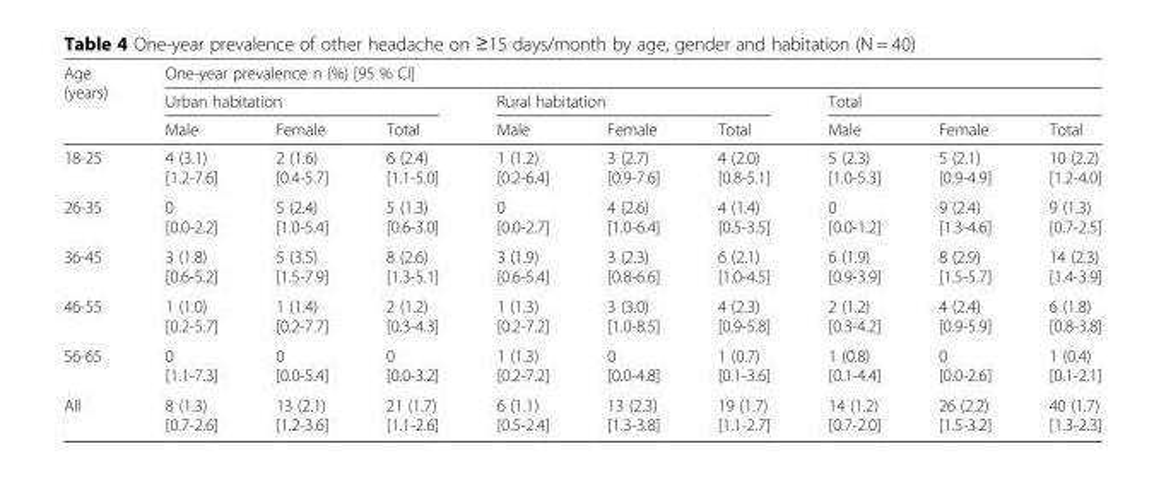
<table><thead><tr><td rowspan="3">Age (years)</td><td colspan="9">One-year prevalence n (%) [95 % CI]</td></tr><tr><td colspan="3">Urban habitation</td><td colspan="3">Rural habitation</td><td colspan="3">Total</td></tr><tr><td>Male</td><td>Female</td><td>Total</td><td>Male</td><td>Female</td><td>Total</td><td>Male</td><td>Female</td><td>Total</td></tr></thead><tbody><tr><td>18-25</td><td>4 (3.1) [1.2-7.6]</td><td>2 (1.6) [0.4-5.7]</td><td>6 (2.4) [1.1-5.0]</td><td>1 (1.2) [0.2-6.4]</td><td>3 (2.7) [0.9-7.6]</td><td>4 (2.0) [0.8-5.1]</td><td>5 (2.3) [1.0-5.3]</td><td>5 (2.1) [0.9-4.9]</td><td>10 (2.2) [1.2-4.0]</td></tr><tr><td>26-35</td><td>0 [0.0-2.2]</td><td>5 (2.4) [1.0-5.4]</td><td>5 (1.3) [0.6-3.0]</td><td>0 [0.0-2.7]</td><td>4 (2.6) [1.0-6.4]</td><td>4 (1.4) [0.5-3.5]</td><td>0 [0.0-1.2]</td><td>9 (2.4) [1.3-4.6]</td><td>9 (1.3) [0.7-2.5]</td></tr><tr><td>36-45</td><td>3 (1.8) [0.6-5.2]</td><td>5 (3.5) [1.5-7.9]</td><td>8 (2.6) [1.3-5.1]</td><td>3 (1.9) [0.6-5.4]</td><td>3 (2.3) [0.8-6.6]</td><td>6 (2.1) [1.0-4.5]</td><td>6 (1.9) [0.9-3.9]</td><td>8 (2.9) [1.5-5.7]</td><td>14 (2.3) [1.4-3.9]</td></tr><tr><td>46-55</td><td>1 (1.0) [0.2-5.7]</td><td>1 (1.4) [0.2-7.7]</td><td>2 (1.2) [0.3-4.3]</td><td>1 (1.3) [0.2-7.2]</td><td>3 (3.0) [1.0-8.5]</td><td>4 (2.3) [0.9-5.8]</td><td>2 (1.2) [0.3-4.2]</td><td>4 (2.4) [0.9-5.9]</td><td>6 (1.8) [0.8-3.8]</td></tr><tr><td>56-65</td><td>0 [1.1-7.3]</td><td>0 [0.0-5.4]</td><td>0 [0.0-3.2]</td><td>1 (1.3) [0.2-7.2]</td><td>0 [0.0-4.8]</td><td>1 (0.7) [0.1-3.6]</td><td>1 (0.8) [0.1-4.4]</td><td>0 [0.0-2.6]</td><td>1 (0.4) [0.1-2.1]</td></tr><tr><td>All</td><td>8 (1.3) [0.7-2.6]</td><td>13 (2.1) [1.2-3.6]</td><td>21 (1.7) [1.1-2.6]</td><td>6 (1.1) [0.5-2.4]</td><td>13 (2.3) [1.3-3.8]</td><td>19 (1.7) [1.1-2.7]</td><td>14 (1.2) [0.7-2.0]</td><td>26 (2.2) [1.5-3.2]</td><td>40 (1.7) [1.3-2.3]</td></tr></tbody></table>